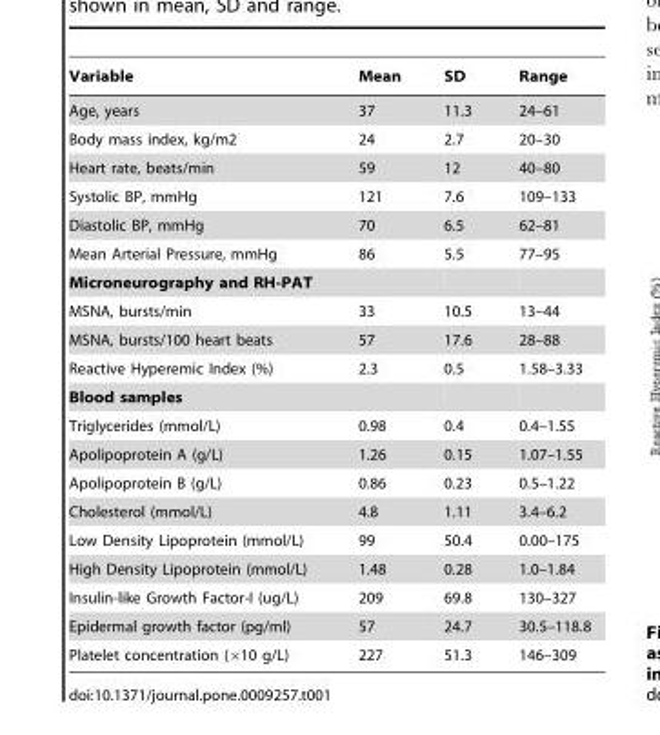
<table><thead><tr><td>Variable</td><td>Mean</td><td>SD</td><td>Range</td></tr></thead><tbody><tr><td>Age, years</td><td>37</td><td>11.3</td><td>24–61</td></tr><tr><td>Body mass index, kg/m2</td><td>24</td><td>2.7</td><td>20–30</td></tr><tr><td>Heart rate, beats/min</td><td>59</td><td>12</td><td>40–80</td></tr><tr><td>Systolic BP, mmHg</td><td>121</td><td>7.6</td><td>109–133</td></tr><tr><td>Diastolic BP, mmHg</td><td>70</td><td>6.5</td><td>62–81</td></tr><tr><td>Mean Arterial Pressure, mmHg</td><td>86</td><td>5.5</td><td>77–95</td></tr><tr><td colspan="4">Microneurography and RH-PAT</td></tr><tr><td>MSNA, bursts/min</td><td>33</td><td>10.5</td><td>13–44</td></tr><tr><td>MSNA, bursts/100 heart beats</td><td>57</td><td>17.6</td><td>28–88</td></tr><tr><td>Reactive Hyperemic Index (%)</td><td>2.3</td><td>0.5</td><td>1.58–3.33</td></tr><tr><td colspan="4">Blood samples</td></tr><tr><td>Triglycerides (mmol/L)</td><td>0.98</td><td>0.4</td><td>0.4–1.55</td></tr><tr><td>Apolipoprotein A (g/L)</td><td>1.26</td><td>0.15</td><td>1.07–1.55</td></tr><tr><td>Apolipoprotein B (g/L)</td><td>0.86</td><td>0.23</td><td>0.5–1.22</td></tr><tr><td>Cholesterol (mmol/L)</td><td>4.8</td><td>1.11</td><td>3.4–6.2</td></tr><tr><td>Low Density Lipoprotein (mmol/L)</td><td>99</td><td>50.4</td><td>0.00–175</td></tr><tr><td>High Density Lipoprotein (mmol/L)</td><td>1.48</td><td>0.28</td><td>1.0–1.84</td></tr><tr><td>Insulin-like Growth Factor-I (ug/L)</td><td>209</td><td>69.8</td><td>130–327</td></tr><tr><td>Epidermal growth factor (pg/ml)</td><td>57</td><td>24.7</td><td>30.5–118.8</td></tr><tr><td>Platelet concentration (×10 g/L)</td><td>227</td><td>51.3</td><td>146–309</td></tr></tbody></table>